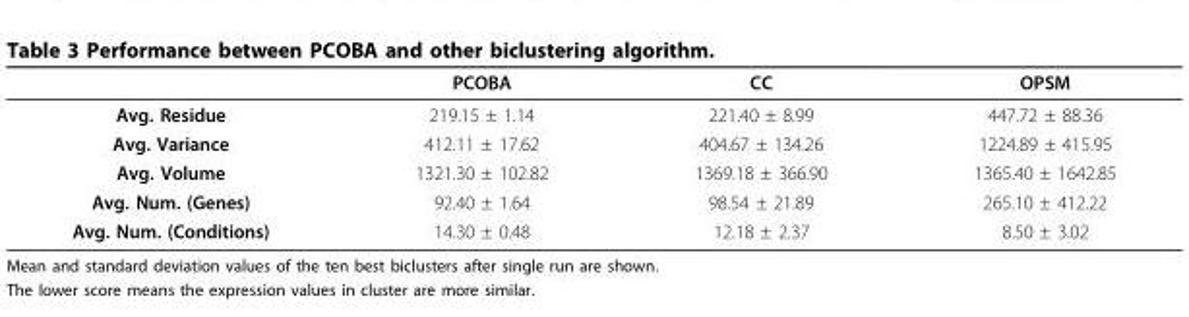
<table><thead><tr><td></td><td>PCOBA</td><td>CC</td><td>OPSM</td></tr></thead><tbody><tr><td>Avg. Residue</td><td>219.15 ± 1.14</td><td>221.40 ± 8.99</td><td>447.72 ± 88.36</td></tr><tr><td>Avg. Variance</td><td>412.11 ± 17.62</td><td>404.67 ± 134.26</td><td>1224.89 ± 415.95</td></tr><tr><td>Avg. Volume</td><td>1321.30 ± 102.82</td><td>1369.18 ± 366.90</td><td>1365.40 ± 1642.85</td></tr><tr><td>Avg. Num. (Genes)</td><td>92.40 ± 1.64</td><td>98.54 ± 21.89</td><td>265.10 ± 412.22</td></tr><tr><td>Avg. Num. (Conditions)</td><td>14.30 ± 0.48</td><td>12.18 ± 2.37</td><td>8.50 ± 3.02</td></tr></tbody></table>